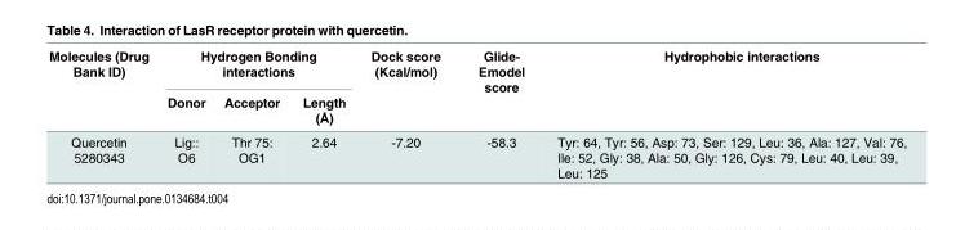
<table><thead><tr><td rowspan="2">Molecules (Drug Bank ID)</td><td colspan="3">Hydrogen Bonding interactions</td><td rowspan="2">Dock score (Kcal/mol)</td><td rowspan="2">Glide- Emodel score</td><td rowspan="2">Hydrophobic interactions</td></tr><tr><td>Donor</td><td>Acceptor</td><td>Length (Å)</td></tr></thead><tbody><tr><td>Quercetin 5280343</td><td>Lig:: O6</td><td>Thr 75: OG1</td><td>2.64</td><td>-7.20</td><td>-58.3</td><td>Tyr: 64, Tyr: 56, Asp: 73, Ser: 129, Leu: 36, Ala: 127, Val: 76, Ile: 52, Gly: 38, Ala: 50, Gly: 126, Cys: 79, Leu: 40, Leu: 39, Leu: 125</td></tr></tbody></table>